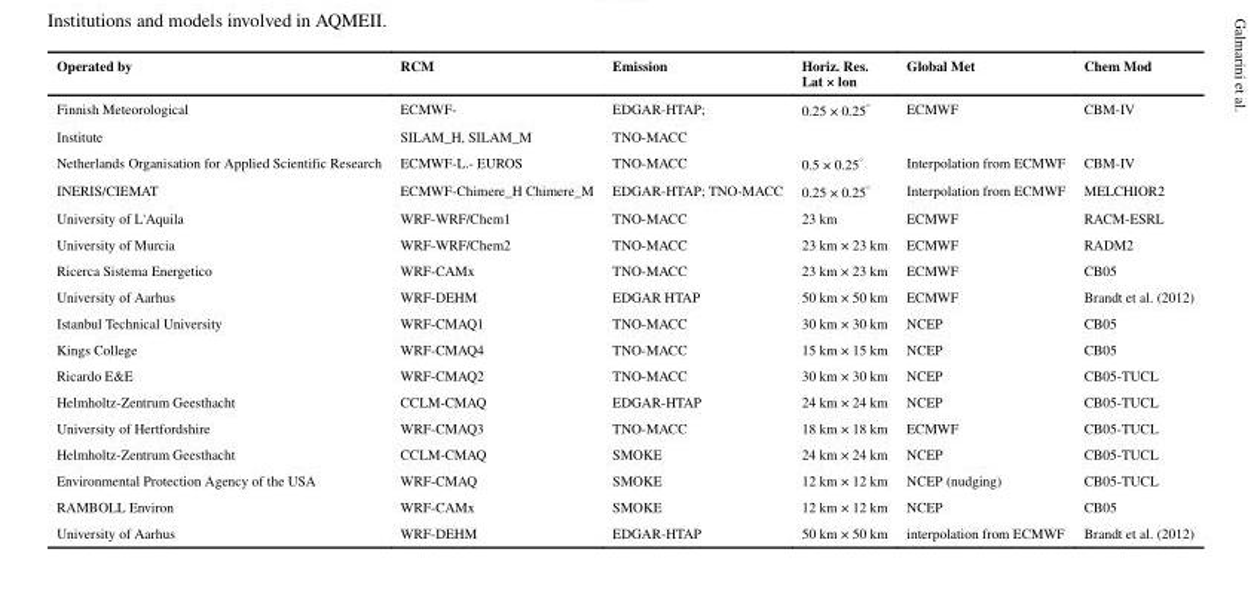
<table><thead><tr><td>Operated by</td><td>RCM</td><td>Emission</td><td>Horiz. Res. Lat × lon</td><td>Global Met</td><td>Chem Mod</td></tr></thead><tbody><tr><td>Finnish Meteorological</td><td>ECMWF-</td><td>EDGAR-HTAP;</td><td>0.25 × 0.25<sup>°</sup></td><td>ECMWF</td><td>CBM-IV</td></tr><tr><td>Institute</td><td>SILAM_H, SILAM_M</td><td>TNO-MACC</td><td></td><td></td><td></td></tr><tr><td>Netherlands Organisation for Applied Scientific Research</td><td>ECMWF-L.- EUROS</td><td>TNO-MACC</td><td>0.5 × 0.25<sup>°</sup></td><td>Interpolation from ECMWF</td><td>CBM-IV</td></tr><tr><td>INERIS/CIEMAT</td><td>ECMWF-Chimere_H Chimere_M</td><td>EDGAR-HTAP; TNO-MACC</td><td>0.25 × 0.25<sup>°</sup></td><td>Interpolation from ECMWF</td><td>MELCHIOR2</td></tr><tr><td>University of L&#x27;Aquila</td><td>WRF-WRF/Chem1</td><td>TNO-MACC</td><td>23 km</td><td>ECMWF</td><td>RACM-ESRL</td></tr><tr><td>University of Murcia</td><td>WRF-WRF/Chem2</td><td>TNO-MACC</td><td>23 km × 23 km</td><td>ECMWF</td><td>RADM2</td></tr><tr><td>Ricerca Sistema Energetico</td><td>WRF-CAMx</td><td>TNO-MACC</td><td>23 km × 23 km</td><td>ECMWF</td><td>CB05</td></tr><tr><td>University of Aarhus</td><td>WRF-DEHM</td><td>EDGAR HTAP</td><td>50 km × 50 km</td><td>ECMWF</td><td>Brandt et al. (2012)</td></tr><tr><td>Istanbul Technical University</td><td>WRF-CMAQ1</td><td>TNO-MACC</td><td>30 km × 30 km</td><td>NCEP</td><td>CB05</td></tr><tr><td>Kings College</td><td>WRF-CMAQ4</td><td>TNO-MACC</td><td>15 km × 15 km</td><td>NCEP</td><td>CB05</td></tr><tr><td>Ricardo E&amp;E</td><td>WRF-CMAQ2</td><td>TNO-MACC</td><td>30 km × 30 km</td><td>NCEP</td><td>CB05-TUCL</td></tr><tr><td>Helmholtz-Zentrum Geesthacht</td><td>CCLM-CMAQ</td><td>EDGAR-HTAP</td><td>24 km × 24 km</td><td>NCEP</td><td>CB05-TUCL</td></tr><tr><td>University of Hertfordshire</td><td>WRF-CMAQ3</td><td>TNO-MACC</td><td>18 km × 18 km</td><td>ECMWF</td><td>CB05-TUCL</td></tr><tr><td>Helmholtz-Zentrum Geesthacht</td><td>CCLM-CMAQ</td><td>SMOKE</td><td>24 km × 24 km</td><td>NCEP</td><td>CB05-TUCL</td></tr><tr><td>Environmental Protection Agency of the USA</td><td>WRF-CMAQ</td><td>SMOKE</td><td>12 km × 12 km</td><td>NCEP (nudging)</td><td>CB05-TUCL</td></tr><tr><td>RAMBOLL Environ</td><td>WRF-CAMx</td><td>SMOKE</td><td>12 km × 12 km</td><td>NCEP</td><td>CB05</td></tr><tr><td>University of Aarhus</td><td>WRF-DEHM</td><td>EDGAR-HTAP</td><td>50 km × 50 km</td><td>interpolation from ECMWF</td><td>Brandt et al. (2012)</td></tr></tbody></table>